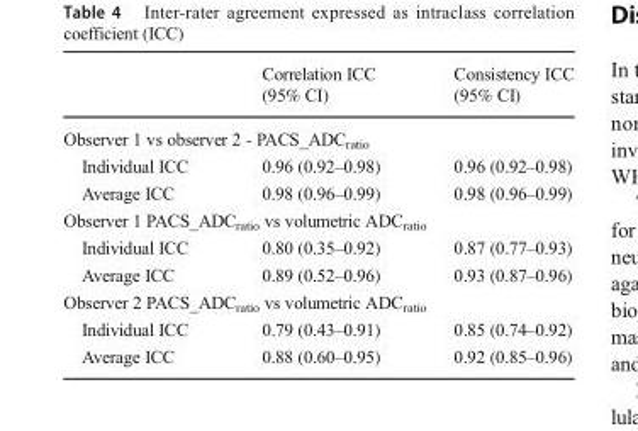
<table><thead><tr><td></td><td>Correlation ICC (95% CI)</td><td>Consistency ICC (95% CI)</td></tr></thead><tbody><tr><td colspan="3">Observer 1 vs observer 2 - PACS_ADC<sub>ratio</sub></td></tr><tr><td>Individual ICC</td><td>0.96 (0.92–0.98)</td><td>0.96 (0.92–0.98)</td></tr><tr><td>Average ICC</td><td>0.98 (0.96–0.99)</td><td>0.98 (0.96–0.99)</td></tr><tr><td colspan="3">Observer 1 PACS_ADC<sub>ratio</sub> vs volumetric ADC<sub>ratio</sub></td></tr><tr><td>Individual ICC</td><td>0.80 (0.35–0.92)</td><td>0.87 (0.77–0.93)</td></tr><tr><td>Average ICC</td><td>0.89 (0.52–0.96)</td><td>0.93 (0.87–0.96)</td></tr><tr><td colspan="3">Observer 2 PACS_ADC<sub>ratio</sub> vs volumetric ADC<sub>ratio</sub></td></tr><tr><td>Individual ICC</td><td>0.79 (0.43–0.91)</td><td>0.85 (0.74–0.92)</td></tr><tr><td>Average ICC</td><td>0.88 (0.60–0.95)</td><td>0.92 (0.85–0.96)</td></tr></tbody></table>